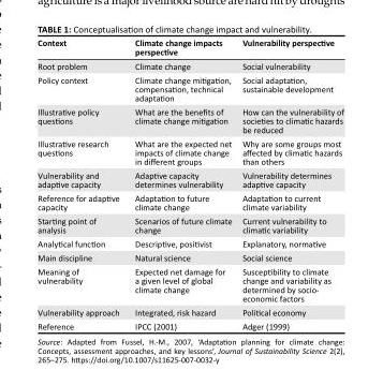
<table><thead><tr><td>Context</td><td>Climate change impacts perspective</td><td>Vulnerability perspective</td></tr></thead><tbody><tr><td>Root problem</td><td>Climate change</td><td>Social vulnerability</td></tr><tr><td>Policy context</td><td>Climate change mitigation, compensation, technical adaptation</td><td>Social adaptation, sustainable development</td></tr><tr><td>Illustrative policy questions</td><td>What are the benefits of climate change mitigation</td><td>How can the vulnerability of societies to climatic hazards be reduced</td></tr><tr><td>Illustrative research questions</td><td>What are the expected net impacts of climate change in different groups</td><td>Why are some groups most affected by climatic hazards than others</td></tr><tr><td>Vulnerability and adaptive capacity</td><td>Adaptive capacity determines vulnerability</td><td>Vulnerability determines adaptive capacity</td></tr><tr><td>Reference for adaptive capacity</td><td>Adaptation to future climate change</td><td>Adaptation to current climate variability</td></tr><tr><td>Starting point of analysis</td><td>Scenarios of future climate change</td><td>Current vulnerability to climatic variability</td></tr><tr><td>Analytical function</td><td>Descriptive, positivist</td><td>Explanatory, normative</td></tr><tr><td>Main discipline</td><td>Natural science</td><td>Social science</td></tr><tr><td>Meaning of vulnerability</td><td>Expected net damage for a given level of global climate change</td><td>Susceptibility to climate change and variability as determined by socio- economic factors</td></tr><tr><td>Vulnerability approach</td><td>Integrated, risk hazard</td><td>Political economy</td></tr><tr><td>Reference</td><td>IPCC (2001)</td><td>Adger (1999)</td></tr></tbody></table>